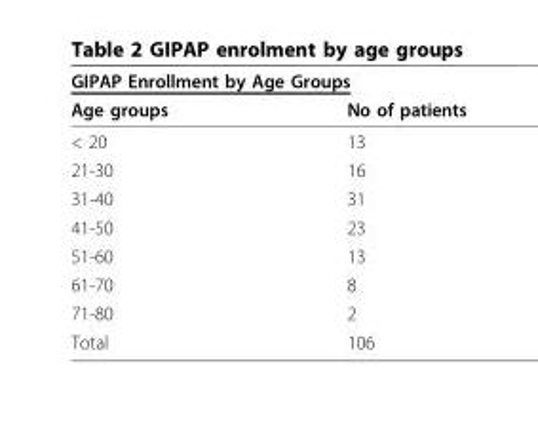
<table><thead><tr><td colspan="2">GIPAP Enrollment by Age Groups</td></tr><tr><td>Age groups</td><td>No of patients</td></tr></thead><tbody><tr><td>&lt; 20</td><td>13</td></tr><tr><td>21-30</td><td>16</td></tr><tr><td>31-40</td><td>31</td></tr><tr><td>41-50</td><td>23</td></tr><tr><td>51-60</td><td>13</td></tr><tr><td>61-70</td><td>8</td></tr><tr><td>71-80</td><td>2</td></tr><tr><td>Total</td><td>106</td></tr></tbody></table>